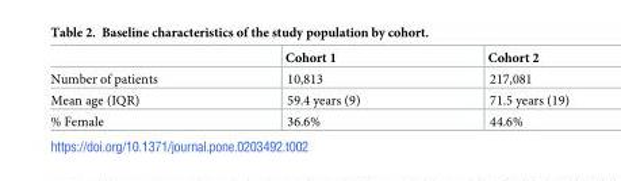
<table><thead><tr><td></td><td>Cohort 1</td><td>Cohort 2</td></tr></thead><tbody><tr><td>Number of patients</td><td>10,813</td><td>217,081</td></tr><tr><td>Mean age (IQR)</td><td>59.4 years (9)</td><td>71.5 years (19)</td></tr><tr><td>% Female</td><td>36.6%</td><td>44.6%</td></tr></tbody></table>